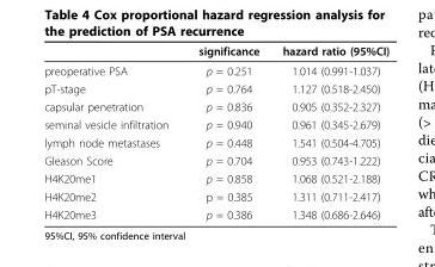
<table><thead><tr><td></td><td>significance</td><td>hazard ratio (95%CI)</td></tr></thead><tbody><tr><td>preoperative PSA</td><td>p = 0.251</td><td>1.014 (0.991-1.037)</td></tr><tr><td>pT-stage</td><td>p = 0.764</td><td>1.127 (0.518-2.450)</td></tr><tr><td>capsular penetration</td><td>p = 0.836</td><td>0.905 (0.352-2.327)</td></tr><tr><td>seminal vesicle infiltration</td><td>p = 0.940</td><td>0.961 (0.345-2.679)</td></tr><tr><td>lymph node metastases</td><td>p = 0.448</td><td>1.541 (0.504-4.705)</td></tr><tr><td>Gleason Score</td><td>p = 0.704</td><td>0.953 (0.743-1.222)</td></tr><tr><td>H4K20me1</td><td>p = 0.858</td><td>1.068 (0.521-2.188)</td></tr><tr><td>H4K20me2</td><td>p = 0.385</td><td>1.311 (0.711-2.417)</td></tr><tr><td>H4K20me3</td><td>p = 0.386</td><td>1.348 (0.686-2.646)</td></tr></tbody></table>